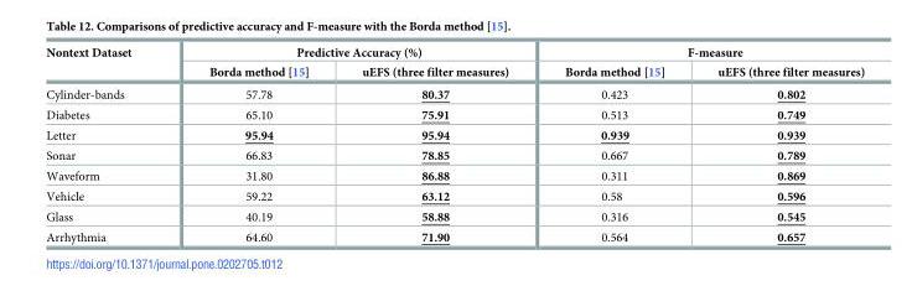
<table><thead><tr><td rowspan="2">Nontext Dataset</td><td colspan="2">Predictive Accuracy (%)</td><td colspan="2">F-measure</td></tr><tr><td>Borda method [15]</td><td>uEFS (three filter measures)</td><td>Borda method [15]</td><td>uEFS (three filter measures)</td></tr></thead><tbody><tr><td>Cylinder-bands</td><td>57.78</td><td>80.37</td><td>0.423</td><td>0.802</td></tr><tr><td>Diabetes</td><td>65.10</td><td>75.91</td><td>0.513</td><td>0.749</td></tr><tr><td>Letter</td><td>95.94</td><td>95.94</td><td>0.939</td><td>0.939</td></tr><tr><td>Sonar</td><td>66.83</td><td>78.85</td><td>0.667</td><td>0.789</td></tr><tr><td>Waveform</td><td>31.80</td><td>86.88</td><td>0.311</td><td>0.869</td></tr><tr><td>Vehicle</td><td>59.22</td><td>63.12</td><td>0.58</td><td>0.596</td></tr><tr><td>Glass</td><td>40.19</td><td>58.88</td><td>0.316</td><td>0.545</td></tr><tr><td>Arrhythmia</td><td>64.60</td><td>71.90</td><td>0.564</td><td>0.657</td></tr></tbody></table>